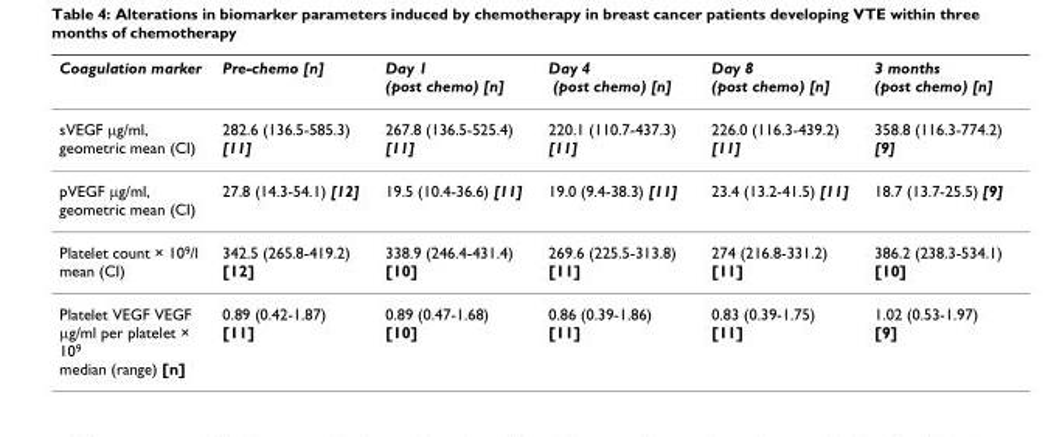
<table><thead><tr><td>Coagulation marker</td><td>Pre-chemo [n]</td><td>Day 1 (post chemo) [n]</td><td>Day 4 (post chemo) [n]</td><td>Day 8 (post chemo) [n]</td><td>3 months (post chemo) [n]</td></tr></thead><tbody><tr><td>sVEGF μg/ml, geometric mean (CI)</td><td>282.6 (136.5-585.3) [11]</td><td>267.8 (136.5-525.4) [11]</td><td>220.1 (110.7-437.3) [11]</td><td>226.0 (116.3-439.2) [11]</td><td>358.8 (116.3-774.2) [9]</td></tr><tr><td>pVEGF μg/ml, geometric mean (CI)</td><td>27.8 (14.3-54.1) [12]</td><td>19.5 (10.4-36.6) [11]</td><td>19.0 (9.4-38.3) [11]</td><td>23.4 (13.2-41.5) [11]</td><td>18.7 (13.7-25.5) [9]</td></tr><tr><td>Platelet count × 10<sup>9</sup>/l mean (CI)</td><td>342.5 (265.8-419.2) [12]</td><td>338.9 (246.4-431.4) [10]</td><td>269.6 (225.5-313.8) [11]</td><td>274 (216.8-331.2) [11]</td><td>386.2 (238.3-534.1) [10]</td></tr><tr><td>Platelet VEGF VEGF μg/ml per platelet × 10<sup>9</sup> median (range) [n]</td><td>0.89 (0.42-1.87) [11]</td><td>0.89 (0.47-1.68) [10]</td><td>0.86 (0.39-1.86) [11]</td><td>0.83 (0.39-1.75) [11]</td><td>1.02 (0.53-1.97) [9]</td></tr></tbody></table>